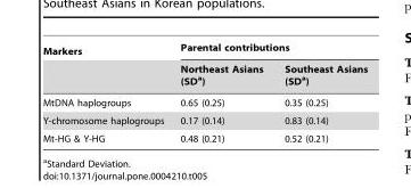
<table><thead><tr><td rowspan="2">Markers</td><td colspan="2">Parental contributions</td></tr><tr><td>Northeast Asians (SD<sup>a</sup>)</td><td>Southeast Asians (SD<sup>a</sup>)</td></tr></thead><tbody><tr><td>MtDNA haplogroups</td><td>0.65 (0.25)</td><td>0.35 (0.25)</td></tr><tr><td>Y-chromosome haplogroups</td><td>0.17 (0.14)</td><td>0.83 (0.14)</td></tr><tr><td>Mt-HG &amp; Y-HG</td><td>0.48 (0.21)</td><td>0.52 (0.21)</td></tr></tbody></table>